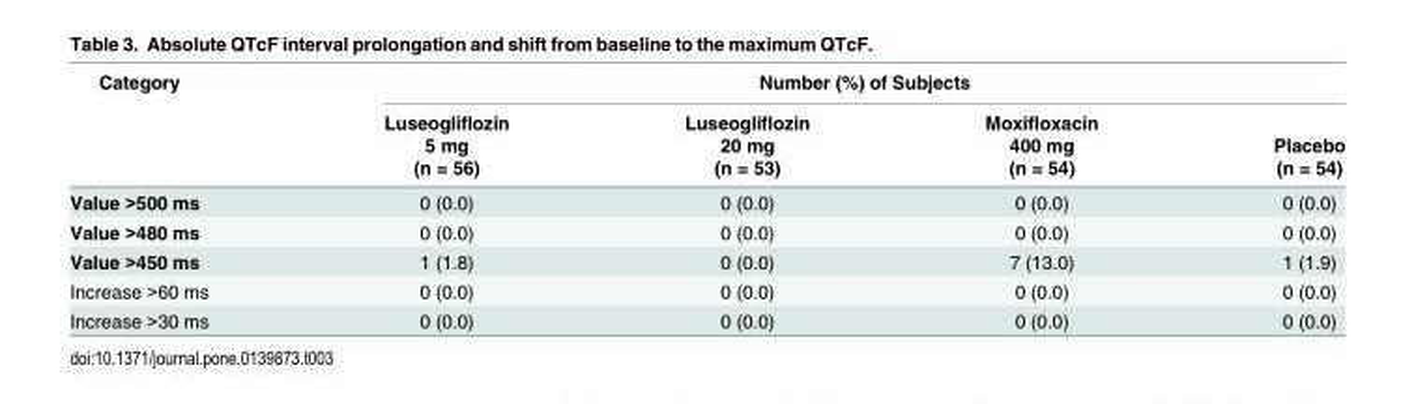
<table><thead><tr><td rowspan="4">Category</td><td colspan="4">Number (%) of Subjects</td></tr><tr><td rowspan="3">Luseogliflozin 5 mg (n = 56)</td><td rowspan="3">Luseogliflozin 20 mg (n = 53)</td><td rowspan="3">Moxifloxacin 400 mg (n = 54)</td><td rowspan="3">Placebo (n = 54)</td></tr><tr></tr><tr></tr></thead><tbody><tr><td>Value &gt;500 ms</td><td>0 (0.0)</td><td>0 (0.0)</td><td>0 (0.0)</td><td>0 (0.0)</td></tr><tr><td>Value &gt;480 ms</td><td>0 (0.0)</td><td>0 (0.0)</td><td>0 (0.0)</td><td>0 (0.0)</td></tr><tr><td>Value &gt;450 ms</td><td>1 (1.8)</td><td>0 (0.0)</td><td>7 (13.0)</td><td>1 (1.9)</td></tr><tr><td>Increase &gt;60 ms</td><td>0 (0.0)</td><td>0 (0.0)</td><td>0 (0.0)</td><td>0 (0.0)</td></tr><tr><td>Increase &gt;30 ms</td><td>0 (0.0)</td><td>0 (0.0)</td><td>0 (0.0)</td><td>0 (0.0)</td></tr></tbody></table>